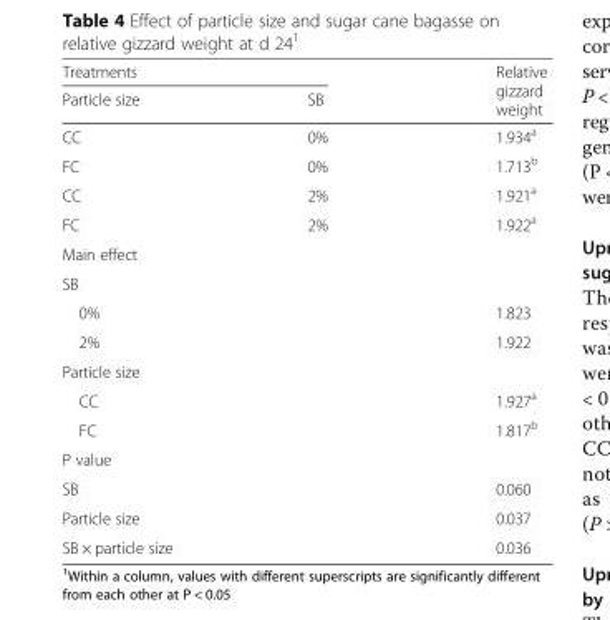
<table><thead><tr><td colspan="2">Treatments</td><td rowspan="2">Relative gizzard weight</td></tr><tr><td>Particle size</td><td>SB</td></tr></thead><tbody><tr><td>CC</td><td>0%</td><td>1.934<sup>a</sup></td></tr><tr><td>FC</td><td>0%</td><td>1.713<sup>b</sup></td></tr><tr><td>CC</td><td>2%</td><td>1.921<sup>a</sup></td></tr><tr><td>FC</td><td>2%</td><td>1.922<sup>a</sup></td></tr><tr><td colspan="3">Main effect</td></tr><tr><td colspan="3">SB</td></tr><tr><td colspan="2">0%</td><td>1.823</td></tr><tr><td colspan="2">2%</td><td>1.922</td></tr><tr><td colspan="3">Particle size</td></tr><tr><td colspan="2">CC</td><td>1.927<sup>a</sup></td></tr><tr><td colspan="2">FC</td><td>1.817<sup>b</sup></td></tr><tr><td colspan="3">P value</td></tr><tr><td colspan="2">SB</td><td>0.060</td></tr><tr><td colspan="2">Particle size</td><td>0.037</td></tr><tr><td colspan="2">SB × particle size</td><td>0.036</td></tr></tbody></table>